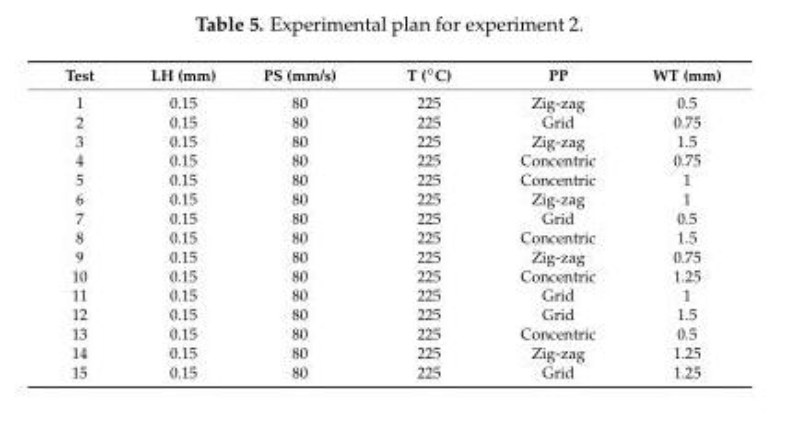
<table><thead><tr><td>Test</td><td>LH (mm)</td><td>PS (mm/s)</td><td>T (◦C)</td><td>PP</td><td>WT (mm)</td></tr></thead><tbody><tr><td>1</td><td>0.15</td><td>80</td><td>225</td><td>Zig-zag</td><td>0.5</td></tr><tr><td>2</td><td>0.15</td><td>80</td><td>225</td><td>Grid</td><td>0.75</td></tr><tr><td>3</td><td>0.15</td><td>80</td><td>225</td><td>Zig-zag</td><td>1.5</td></tr><tr><td>4</td><td>0.15</td><td>80</td><td>225</td><td>Concentric</td><td>0.75</td></tr><tr><td>5</td><td>0.15</td><td>80</td><td>225</td><td>Concentric</td><td>1</td></tr><tr><td>6</td><td>0.15</td><td>80</td><td>225</td><td>Zig-zag</td><td>1</td></tr><tr><td>7</td><td>0.15</td><td>80</td><td>225</td><td>Grid</td><td>0.5</td></tr><tr><td>8</td><td>0.15</td><td>80</td><td>225</td><td>Concentric</td><td>1.5</td></tr><tr><td>9</td><td>0.15</td><td>80</td><td>225</td><td>Zig-zag</td><td>0.75</td></tr><tr><td>10</td><td>0.15</td><td>80</td><td>225</td><td>Concentric</td><td>1.25</td></tr><tr><td>11</td><td>0.15</td><td>80</td><td>225</td><td>Grid</td><td>1</td></tr><tr><td>12</td><td>0.15</td><td>80</td><td>225</td><td>Grid</td><td>1.5</td></tr><tr><td>13</td><td>0.15</td><td>80</td><td>225</td><td>Concentric</td><td>0.5</td></tr><tr><td>14</td><td>0.15</td><td>80</td><td>225</td><td>Zig-zag</td><td>1.25</td></tr><tr><td>15</td><td>0.15</td><td>80</td><td>225</td><td>Grid</td><td>1.25</td></tr></tbody></table>